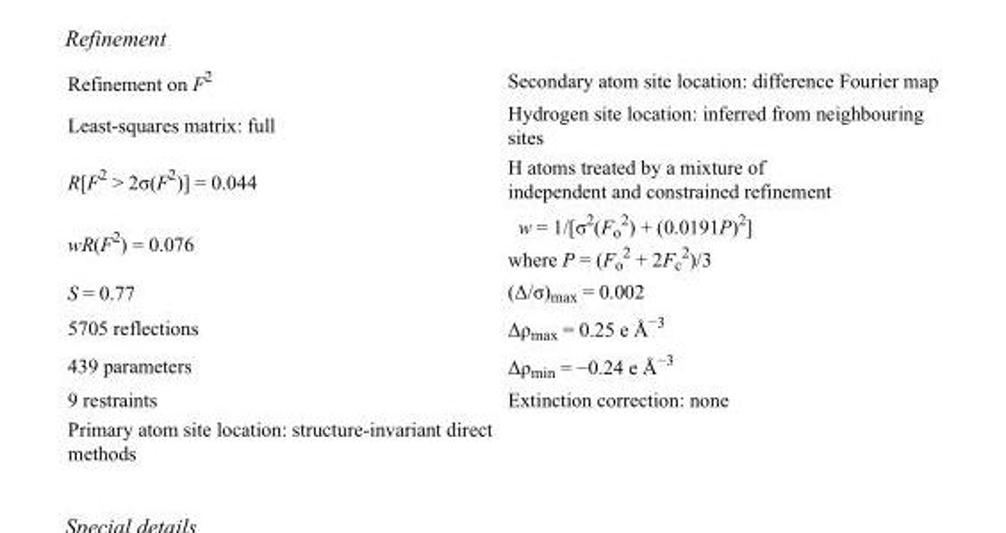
<table><tbody><tr><td>Refinement on F<sup>2</sup></td><td>Secondary atom site location: difference Fourier map</td></tr><tr><td>Least-squares matrix: full</td><td>Hydrogen site location: inferred from neighbouring sites</td></tr><tr><td>R[F<sup>2</sup> &gt; 2σ(F<sup>2</sup>)] = 0.044</td><td>H atoms treated by a mixture of independent and constrained refinement</td></tr><tr><td>wR(F<sup>2</sup>) = 0.076</td><td>w = 1/[σ<sup>2</sup>(F<sub>o</sub> <sup>2</sup>) + (0.0191P)<sup>2</sup>] where P = (F<sub>o</sub> <sup>2</sup> + 2F<sub>c</sub> <sup>2</sup>)/3</td></tr><tr><td>S = 0.77</td><td>(Δ/σ)<sub>max</sub> = 0.002</td></tr><tr><td>5705 reflections</td><td>Δρ<sub>max</sub> = 0.25 e Å<sup>−3</sup></td></tr><tr><td>439 parameters</td><td>Δρ<sub>min</sub> = −0.24 e Å<sup>−3</sup></td></tr><tr><td>9 restraints</td><td>Extinction correction: none</td></tr><tr><td>Primary atom site location: structure-invariant direct methods</td><td></td></tr></tbody></table>